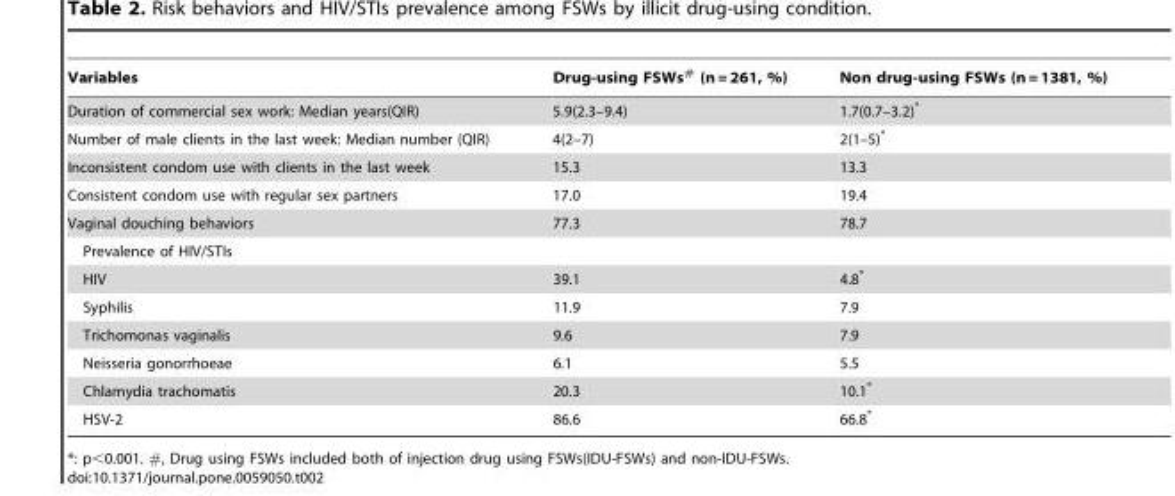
<table><thead><tr><td>Variables</td><td>Drug-using FSWs<sup>#</sup> (n = 261, %)</td><td>Non drug-using FSWs (n = 1381, %)</td></tr></thead><tbody><tr><td>Duration of commercial sex work: Median years(QIR)</td><td>5.9(2.3–9.4)</td><td>1.7(0.7–3.2)*</td></tr><tr><td>Number of male clients in the last week: Median number (QIR)</td><td>4(2–7)</td><td>2(1–5)*</td></tr><tr><td>Inconsistent condom use with clients in the last week</td><td>15.3</td><td>13.3</td></tr><tr><td>Consistent condom use with regular sex partners</td><td>17.0</td><td>19.4</td></tr><tr><td>Vaginal douching behaviors</td><td>77.3</td><td>78.7</td></tr><tr><td colspan="3">Prevalence of HIV/STIs</td></tr><tr><td>HIV</td><td>39.1</td><td>4.8*</td></tr><tr><td>Syphilis</td><td>11.9</td><td>7.9</td></tr><tr><td>Trichomonas vaginalis</td><td>9.6</td><td>7.9</td></tr><tr><td>Neisseria gonorrhoeae</td><td>6.1</td><td>5.5</td></tr><tr><td>Chlamydia trachomatis</td><td>20.3</td><td>10.1*</td></tr><tr><td>HSV-2</td><td>86.6</td><td>66.8*</td></tr></tbody></table>